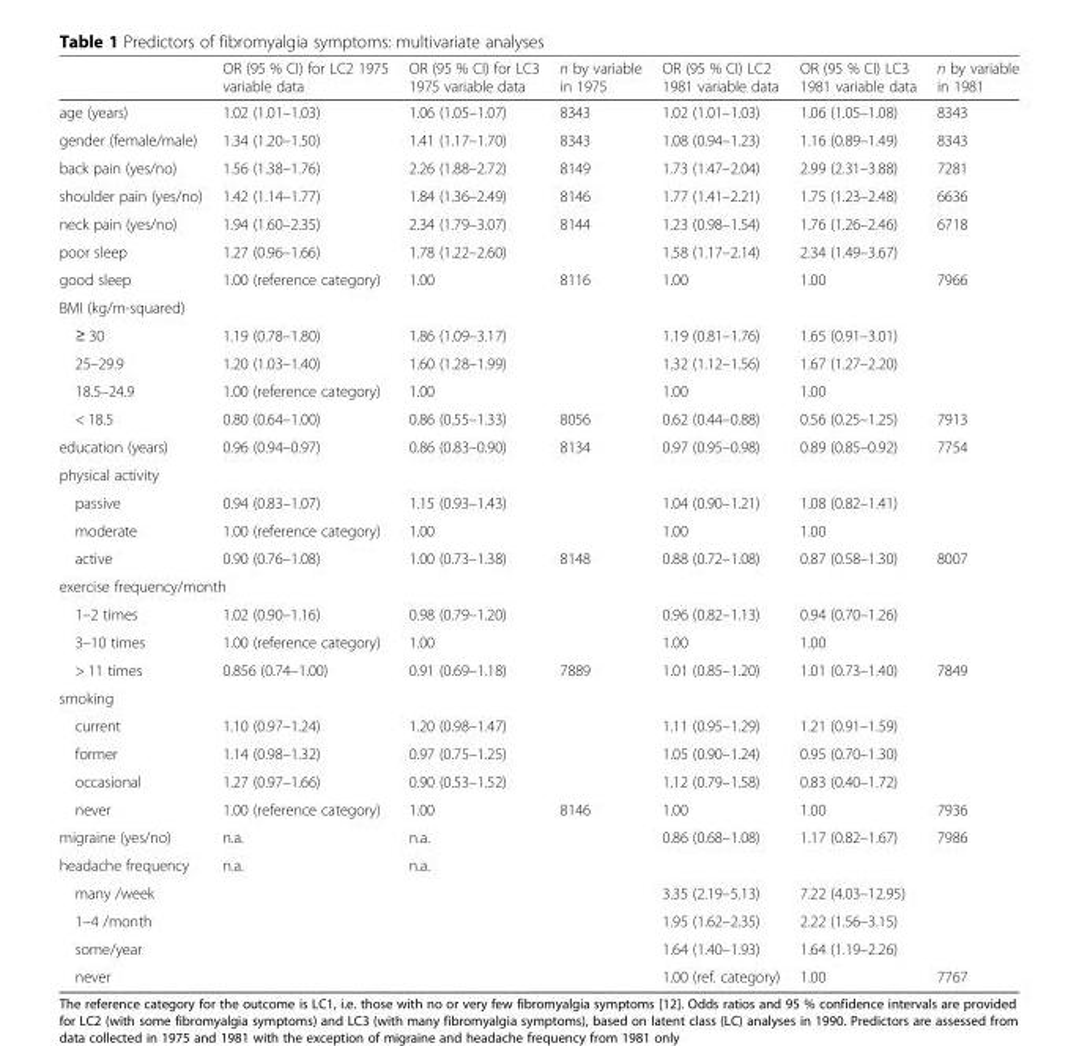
<table><thead><tr><td></td><td>OR (95 % CI) for LC2 1975 variable data</td><td>OR (95 % CI) for LC3 1975 variable data</td><td>n by variable in 1975</td><td>OR (95 % CI) LC2 1981 variable data</td><td>OR (95 % CI) LC3 1981 variable data</td><td>n by variable in 1981</td></tr></thead><tbody><tr><td>age (years)</td><td>1.02 (1.01–1.03)</td><td>1.06 (1.05–1.07)</td><td>8343</td><td>1.02 (1.01–1.03)</td><td>1.06 (1.05–1.08)</td><td>8343</td></tr><tr><td>gender (female/male)</td><td>1.34 (1.20–1.50)</td><td>1.41 (1.17–1.70)</td><td>8343</td><td>1.08 (0.94–1.23)</td><td>1.16 (0.89–1.49)</td><td>8343</td></tr><tr><td>back pain (yes/no)</td><td>1.56 (1.38–1.76)</td><td>2.26 (1.88–2.72)</td><td>8149</td><td>1.73 (1.47–2.04)</td><td>2.99 (2.31–3.88)</td><td>7281</td></tr><tr><td>shoulder pain (yes/no)</td><td>1.42 (1.14–1.77)</td><td>1.84 (1.36–2.49)</td><td>8146</td><td>1.77 (1.41–2.21)</td><td>1.75 (1.23–2.48)</td><td>6636</td></tr><tr><td>neck pain (yes/no)</td><td>1.94 (1.60–2.35)</td><td>2.34 (1.79–3.07)</td><td>8144</td><td>1.23 (0.98–1.54)</td><td>1.76 (1.26–2.46)</td><td>6718</td></tr><tr><td>poor sleep</td><td>1.27 (0.96–1.66)</td><td>1.78 (1.22–2.60)</td><td></td><td>1.58 (1.17–2.14)</td><td>2.34 (1.49–3.67)</td><td></td></tr><tr><td>good sleep</td><td>1.00 (reference category)</td><td>1.00</td><td>8116</td><td>1.00</td><td>1.00</td><td>7966</td></tr><tr><td colspan="7">BMI (kg/m-squared)</td></tr><tr><td>≥ 30</td><td>1.19 (0.78–1.80)</td><td>1.86 (1.09–3.17)</td><td></td><td>1.19 (0.81–1.76)</td><td>1.65 (0.91–3.01)</td><td></td></tr><tr><td>25–29.9</td><td>1.20 (1.03–1.40)</td><td>1.60 (1.28–1.99)</td><td></td><td>1.32 (1.12–1.56)</td><td>1.67 (1.27–2.20)</td><td></td></tr><tr><td>18.5–24.9</td><td>1.00 (reference category)</td><td>1.00</td><td></td><td>1.00</td><td>1.00</td><td></td></tr><tr><td>&lt; 18.5</td><td>0.80 (0.64–1.00)</td><td>0.86 (0.55–1.33)</td><td>8056</td><td>0.62 (0.44–0.88)</td><td>0.56 (0.25–1.25)</td><td>7913</td></tr><tr><td>education (years)</td><td>0.96 (0.94–0.97)</td><td>0.86 (0.83–0.90)</td><td>8134</td><td>0.97 (0.95–0.98)</td><td>0.89 (0.85–0.92)</td><td>7754</td></tr><tr><td colspan="7">physical activity</td></tr><tr><td>passive</td><td>0.94 (0.83–1.07)</td><td>1.15 (0.93–1.43)</td><td></td><td>1.04 (0.90–1.21)</td><td>1.08 (0.82–1.41)</td><td></td></tr><tr><td>moderate</td><td>1.00 (reference category)</td><td>1.00</td><td></td><td>1.00</td><td>1.00</td><td></td></tr><tr><td>active</td><td>0.90 (0.76–1.08)</td><td>1.00 (0.73–1.38)</td><td>8148</td><td>0.88 (0.72–1.08)</td><td>0.87 (0.58–1.30)</td><td>8007</td></tr><tr><td colspan="7">exercise frequency/month</td></tr><tr><td>1–2 times</td><td>1.02 (0.90–1.16)</td><td>0.98 (0.79–1.20)</td><td></td><td>0.96 (0.82–1.13)</td><td>0.94 (0.70–1.26)</td><td></td></tr><tr><td>3–10 times</td><td>1.00 (reference category)</td><td>1.00</td><td></td><td>1.00</td><td>1.00</td><td></td></tr><tr><td>&gt; 11 times</td><td>0.856 (0.74–1.00)</td><td>0.91 (0.69–1.18)</td><td>7889</td><td>1.01 (0.85–1.20)</td><td>1.01 (0.73–1.40)</td><td>7849</td></tr><tr><td colspan="7">smoking</td></tr><tr><td>current</td><td>1.10 (0.97–1.24)</td><td>1.20 (0.98–1.47)</td><td></td><td>1.11 (0.95–1.29)</td><td>1.21 (0.91–1.59)</td><td></td></tr><tr><td>former</td><td>1.14 (0.98–1.32)</td><td>0.97 (0.75–1.25)</td><td></td><td>1.05 (0.90–1.24)</td><td>0.95 (0.70–1.30)</td><td></td></tr><tr><td>occasional</td><td>1.27 (0.97–1.66)</td><td>0.90 (0.53–1.52)</td><td></td><td>1.12 (0.79–1.58)</td><td>0.83 (0.40–1.72)</td><td></td></tr><tr><td>never</td><td>1.00 (reference category)</td><td>1.00</td><td>8146</td><td>1.00</td><td>1.00</td><td>7936</td></tr><tr><td>migraine (yes/no)</td><td>n.a.</td><td>n.a.</td><td></td><td>0.86 (0.68–1.08)</td><td>1.17 (0.82–1.67)</td><td>7986</td></tr><tr><td>headache frequency</td><td>n.a.</td><td>n.a.</td><td></td><td></td><td></td><td></td></tr><tr><td>many /week</td><td></td><td></td><td></td><td>3.35 (2.19–5.13)</td><td>7.22 (4.03–12.95)</td><td></td></tr><tr><td>1–4 /month</td><td></td><td></td><td></td><td>1.95 (1.62–2.35)</td><td>2.22 (1.56–3.15)</td><td></td></tr><tr><td>some/year</td><td></td><td></td><td></td><td>1.64 (1.40–1.93)</td><td>1.64 (1.19–2.26)</td><td></td></tr><tr><td>never</td><td></td><td></td><td></td><td>1.00 (ref. category)</td><td>1.00</td><td>7767</td></tr></tbody></table>